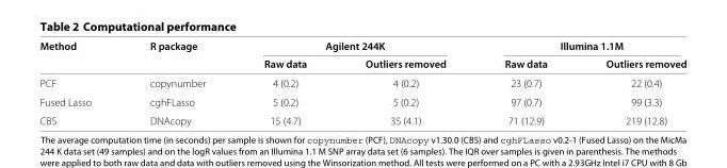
<table><thead><tr><td rowspan="2">Method</td><td rowspan="2">R package</td><td colspan="2">Agilent 244K</td><td colspan="2">Illumina 1.1M</td></tr><tr><td>Raw data</td><td>Outliers removed</td><td>Raw data</td><td>Outliers removed</td></tr></thead><tbody><tr><td>PCF</td><td>copynumber</td><td>4 (0.2)</td><td>4 (0.2)</td><td>23 (0.7)</td><td>22 (0.4)</td></tr><tr><td>Fused Lasso</td><td>cghFLasso</td><td>5 (0.2)</td><td>5 (0.2)</td><td>97 (0.7)</td><td>99 (3.3)</td></tr><tr><td>CBS</td><td>DNAcopy</td><td>15 (4.7)</td><td>35 (4.1)</td><td>71 (12.9)</td><td>219 (12.8)</td></tr></tbody></table>